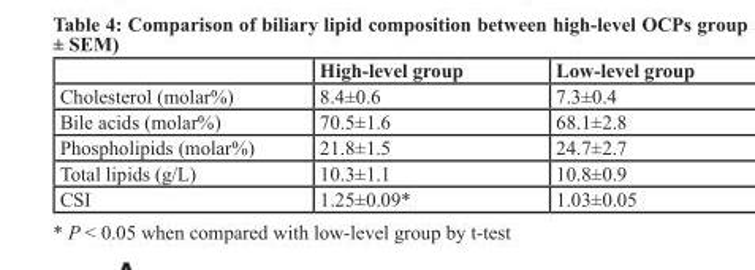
<table><thead><tr><td></td><td>High-level group</td><td>low-level group</td></tr></thead><tbody><tr><td>Cholesterol (molar%)</td><td>8.4±0.6</td><td>7.3±0.4</td></tr><tr><td>Bile acids (molar%)</td><td>70.5±1.6</td><td>68.1±2.8</td></tr><tr><td>Phospholipids (molar%)</td><td>21.8±1.5</td><td>24.7±2.7</td></tr><tr><td>Total lipids (g/L)</td><td>10.3±1.1</td><td>10.8±0.9</td></tr><tr><td>CSI</td><td>1.25±0.09*</td><td>1.03±0.05</td></tr></tbody></table>